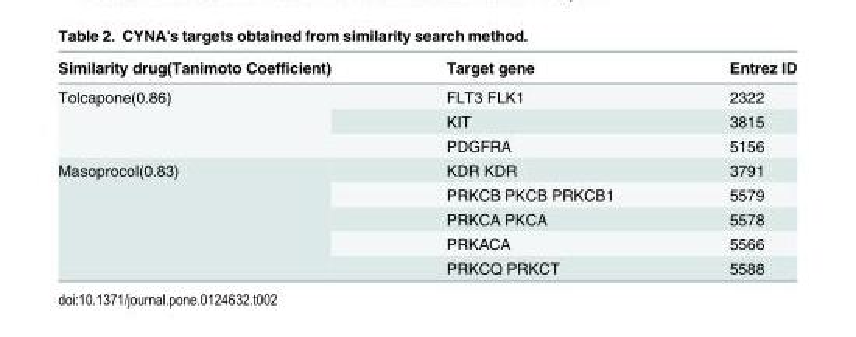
<table><thead><tr><td>Similarity drug(Tanimoto Coefficient)</td><td>Target gene</td><td>Entrez ID</td></tr></thead><tbody><tr><td rowspan="3">Tolcapone(0.86)</td><td>FLT3 FLK1</td><td>2322</td></tr><tr><td>KIT</td><td>3815</td></tr><tr><td>PDGFRA</td><td>5156</td></tr><tr><td rowspan="5">Masoprocol(0.83)</td><td>KDR KDR</td><td>3791</td></tr><tr><td>PRKCB PKCB PRKCB1</td><td>5579</td></tr><tr><td>PRKCA PKCA</td><td>5578</td></tr><tr><td>PRKACA</td><td>5566</td></tr><tr><td>PRKCQ PRKCT</td><td>5588</td></tr></tbody></table>